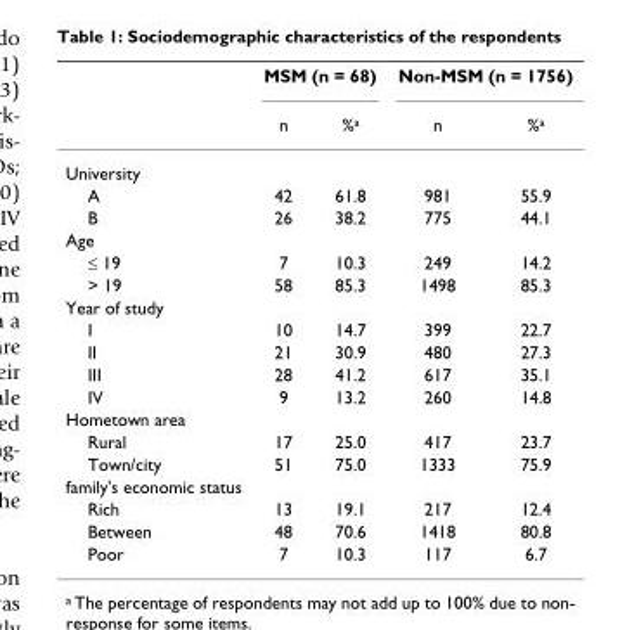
<table><thead><tr><td rowspan="2"></td><td colspan="2">MSM (n = 68)</td><td colspan="2">Non-MSM (n = 1756)</td></tr><tr><td>n</td><td>%<sup>a</sup></td><td>n</td><td>%<sup>a</sup></td></tr></thead><tbody><tr><td colspan="5">University</td></tr><tr><td>A</td><td>42</td><td>61.8</td><td>981</td><td>55.9</td></tr><tr><td>B</td><td>26</td><td>38.2</td><td>775</td><td>44.1</td></tr><tr><td colspan="5">Age</td></tr><tr><td>≤ 19</td><td>7</td><td>10.3</td><td>249</td><td>14.2</td></tr><tr><td>&gt; 19</td><td>58</td><td>85.3</td><td>1498</td><td>85.3</td></tr><tr><td colspan="5">Year of study</td></tr><tr><td>I</td><td>10</td><td>14.7</td><td>399</td><td>22.7</td></tr><tr><td>II</td><td>21</td><td>30.9</td><td>480</td><td>27.3</td></tr><tr><td>III</td><td>28</td><td>41.2</td><td>617</td><td>35.1</td></tr><tr><td>IV</td><td>9</td><td>13.2</td><td>260</td><td>14.8</td></tr><tr><td colspan="5">Hometown area</td></tr><tr><td>Rural</td><td>17</td><td>25.0</td><td>417</td><td>23.7</td></tr><tr><td>Town/city</td><td>51</td><td>75.0</td><td>1333</td><td>75.9</td></tr><tr><td colspan="5">family&#x27;s economic status</td></tr><tr><td>Rich</td><td>13</td><td>19.1</td><td>217</td><td>12.4</td></tr><tr><td>Between</td><td>48</td><td>70.6</td><td>1418</td><td>80.8</td></tr><tr><td>Poor</td><td>7</td><td>10.3</td><td>117</td><td>6.7</td></tr></tbody></table>